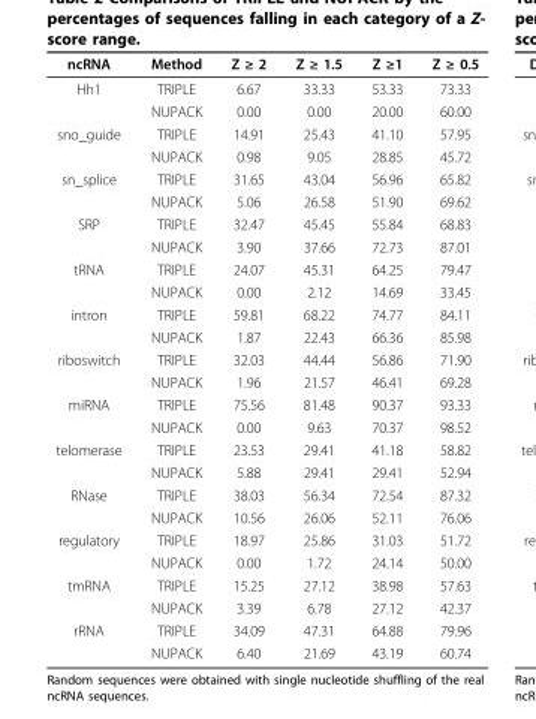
<table><thead><tr><td>ncRNA</td><td>Method</td><td>Z ≥ 2</td><td>Z ≥ 1.5</td><td>Z ≥1</td><td>Z ≥ 0.5</td></tr></thead><tbody><tr><td rowspan="2">Hh1</td><td>TRIPLE</td><td>6.67</td><td>33.33</td><td>53.33</td><td>73.33</td></tr><tr><td>NUPACK</td><td>0.00</td><td>0.00</td><td>20.00</td><td>60.00</td></tr><tr><td rowspan="2">sno_guide</td><td>TRIPLE</td><td>14.91</td><td>25.43</td><td>41.10</td><td>57.95</td></tr><tr><td>NUPACK</td><td>0.98</td><td>9.05</td><td>28.85</td><td>45.72</td></tr><tr><td rowspan="2">sn_splice</td><td>TRIPLE</td><td>31.65</td><td>43.04</td><td>56.96</td><td>65.82</td></tr><tr><td>NUPACK</td><td>5.06</td><td>26.58</td><td>51.90</td><td>69.62</td></tr><tr><td rowspan="2">SRP</td><td>TRIPLE</td><td>32.47</td><td>45.45</td><td>55.84</td><td>68.83</td></tr><tr><td>NUPACK</td><td>3.90</td><td>37.66</td><td>72.73</td><td>87.01</td></tr><tr><td rowspan="2">tRNA</td><td>TRIPLE</td><td>24.07</td><td>45.31</td><td>64.25</td><td>79.47</td></tr><tr><td>NUPACK</td><td>0.00</td><td>2.12</td><td>14.69</td><td>33.45</td></tr><tr><td rowspan="2">intron</td><td>TRIPLE</td><td>59.81</td><td>68.22</td><td>74.77</td><td>84.11</td></tr><tr><td>NUPACK</td><td>1.87</td><td>22.43</td><td>66.36</td><td>85.98</td></tr><tr><td rowspan="2">riboswitch</td><td>TRIPLE</td><td>32.03</td><td>44.44</td><td>56.86</td><td>71.90</td></tr><tr><td>NUPACK</td><td>1.96</td><td>21.57</td><td>46.41</td><td>69.28</td></tr><tr><td rowspan="2">miRNA</td><td>TRIPLE</td><td>75.56</td><td>81.48</td><td>90.37</td><td>93.33</td></tr><tr><td>NUPACK</td><td>0.00</td><td>9.63</td><td>70.37</td><td>98.52</td></tr><tr><td rowspan="2">telomerase</td><td>TRIPLE</td><td>23.53</td><td>29.41</td><td>41.18</td><td>58.82</td></tr><tr><td>NUPACK</td><td>5.88</td><td>29.41</td><td>29.41</td><td>52.94</td></tr><tr><td rowspan="2">RNase</td><td>TRIPLE</td><td>38.03</td><td>56.34</td><td>72.54</td><td>87.32</td></tr><tr><td>NUPACK</td><td>10.56</td><td>26.06</td><td>52.11</td><td>76.06</td></tr><tr><td rowspan="2">regulatory</td><td>TRIPLE</td><td>18.97</td><td>25.86</td><td>31.03</td><td>51.72</td></tr><tr><td>NUPACK</td><td>0.00</td><td>1.72</td><td>24.14</td><td>50.00</td></tr><tr><td rowspan="2">tmRNA</td><td>TRIPLE</td><td>15.25</td><td>27.12</td><td>38.98</td><td>57.63</td></tr><tr><td>NUPACK</td><td>3.39</td><td>6.78</td><td>27.12</td><td>42.37</td></tr><tr><td rowspan="2">rRNA</td><td>TRIPLE</td><td>34.09</td><td>47.31</td><td>64.88</td><td>79.96</td></tr><tr><td>NUPACK</td><td>6.40</td><td>21.69</td><td>43.19</td><td>60.74</td></tr></tbody></table>